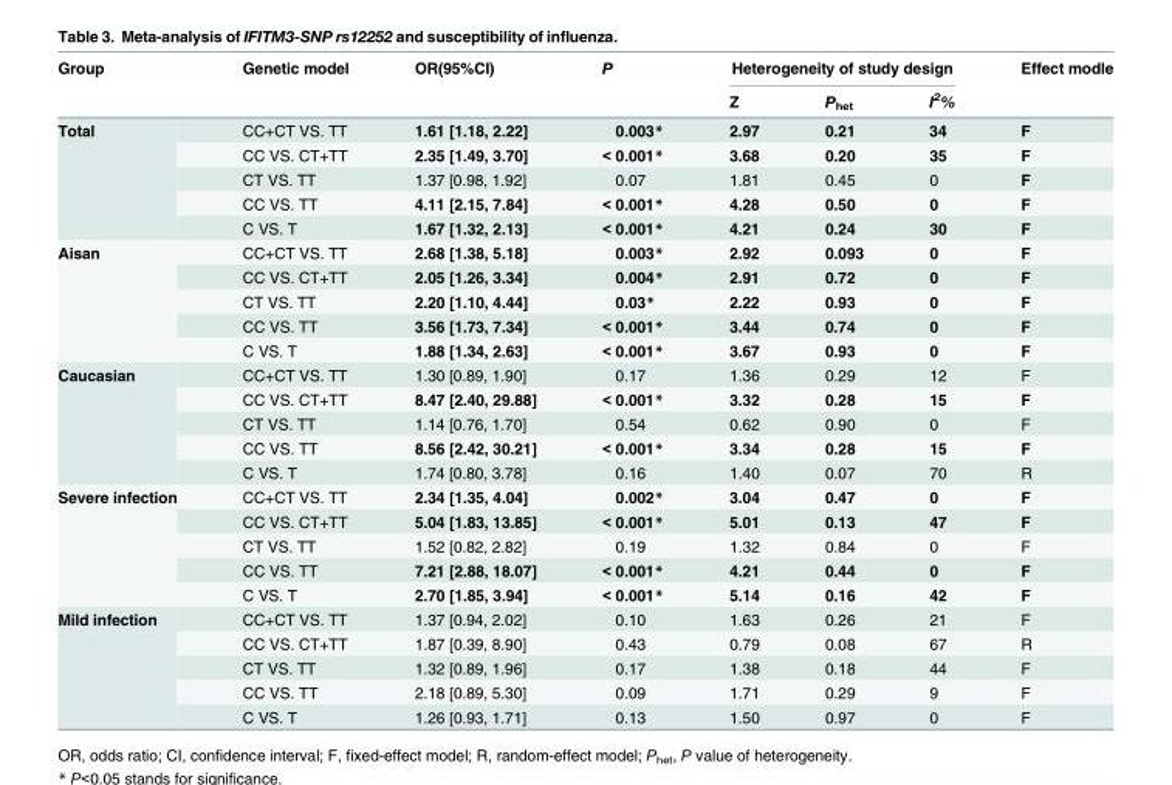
<table><thead><tr><td rowspan="2">Group</td><td rowspan="2">Genetic model</td><td rowspan="2">OR(95%CI)</td><td rowspan="2">P</td><td colspan="3">Heterogeneity of study design</td><td rowspan="2">Effect modle</td></tr><tr><td>Z</td><td>P<sub>het</sub></td><td>I<sup>2</sup>%</td></tr></thead><tbody><tr><td rowspan="5">Total</td><td>CC+CT VS. TT</td><td>1.61 [1.18, 2.22]</td><td>0.003*</td><td>2.97</td><td>0.21</td><td>34</td><td>F</td></tr><tr><td>CC VS. CT+TT</td><td>2.35 [1.49, 3.70]</td><td>&lt; 0.001*</td><td>3.68</td><td>0.20</td><td>35</td><td>F</td></tr><tr><td>CT VS. TT</td><td>1.37 [0.98, 1.92]</td><td>0.07</td><td>1.81</td><td>0.45</td><td>0</td><td>F</td></tr><tr><td>CC VS. TT</td><td>4.11 [2.15, 7.84]</td><td>&lt; 0.001*</td><td>4.28</td><td>0.50</td><td>0</td><td>F</td></tr><tr><td>C VS. T</td><td>1.67 [1.32, 2.13]</td><td>&lt; 0.001*</td><td>4.21</td><td>0.24</td><td>30</td><td>F</td></tr><tr><td rowspan="5">Aisan</td><td>CC+CT VS. TT</td><td>2.68 [1.38, 5.18]</td><td>0.003*</td><td>2.92</td><td>0.093</td><td>0</td><td>F</td></tr><tr><td>CC VS. CT+TT</td><td>2.05 [1.26, 3.34]</td><td>0.004*</td><td>2.91</td><td>0.72</td><td>0</td><td>F</td></tr><tr><td>CT VS. TT</td><td>2.20 [1.10, 4.44]</td><td>0.03*</td><td>2.22</td><td>0.93</td><td>0</td><td>F</td></tr><tr><td>CC VS. TT</td><td>3.56 [1.73, 7.34]</td><td>&lt; 0.001*</td><td>3.44</td><td>0.74</td><td>0</td><td>F</td></tr><tr><td>C VS. T</td><td>1.88 [1.34, 2.63]</td><td>&lt; 0.001*</td><td>3.67</td><td>0.93</td><td>0</td><td>F</td></tr><tr><td rowspan="5">Caucasian</td><td>CC+CT VS. TT</td><td>1.30 [0.89, 1.90]</td><td>0.17</td><td>1.36</td><td>0.29</td><td>12</td><td>F</td></tr><tr><td>CC VS. CT+TT</td><td>8.47 [2.40, 29.88]</td><td>&lt; 0.001*</td><td>3.32</td><td>0.28</td><td>15</td><td>F</td></tr><tr><td>CT VS. TT</td><td>1.14 [0.76, 1.70]</td><td>0.54</td><td>0.62</td><td>0.90</td><td>0</td><td>F</td></tr><tr><td>CC VS. TT</td><td>8.56 [2.42, 30.21]</td><td>&lt; 0.001*</td><td>3.34</td><td>0.28</td><td>15</td><td>F</td></tr><tr><td>C VS. T</td><td>1.74 [0.80, 3.78]</td><td>0.16</td><td>1.40</td><td>0.07</td><td>70</td><td>R</td></tr><tr><td rowspan="5">Severe infection</td><td>CC+CT VS. TT</td><td>2.34 [1.35, 4.04]</td><td>0.002*</td><td>3.04</td><td>0.47</td><td>0</td><td>F</td></tr><tr><td>CC VS. CT+TT</td><td>5.04 [1.83, 13.85]</td><td>&lt; 0.001*</td><td>5.01</td><td>0.13</td><td>47</td><td>F</td></tr><tr><td>CT VS. TT</td><td>1.52 [0.82, 2.82]</td><td>0.19</td><td>1.32</td><td>0.84</td><td>0</td><td>F</td></tr><tr><td>CC VS. TT</td><td>7.21 [2.88, 18.07]</td><td>&lt; 0.001*</td><td>4.21</td><td>0.44</td><td>0</td><td>F</td></tr><tr><td>C VS. T</td><td>2.70 [1.85, 3.94]</td><td>&lt; 0.001*</td><td>5.14</td><td>0.16</td><td>42</td><td>F</td></tr><tr><td rowspan="5">Mild infection</td><td>CC+CT VS. TT</td><td>1.37 [0.94, 2.02]</td><td>0.10</td><td>1.63</td><td>0.26</td><td>21</td><td>F</td></tr><tr><td>CC VS. CT+TT</td><td>1.87 [0.39, 8.90]</td><td>0.43</td><td>0.79</td><td>0.08</td><td>67</td><td>R</td></tr><tr><td>CT VS. TT</td><td>1.32 [0.89, 1.96]</td><td>0.17</td><td>1.38</td><td>0.18</td><td>44</td><td>F</td></tr><tr><td>CC VS. TT</td><td>2.18 [0.89, 5.30]</td><td>0.09</td><td>1.71</td><td>0.29</td><td>9</td><td>F</td></tr><tr><td>C VS. T</td><td>1.26 [0.93, 1.71]</td><td>0.13</td><td>1.50</td><td>0.97</td><td>0</td><td>F</td></tr></tbody></table>